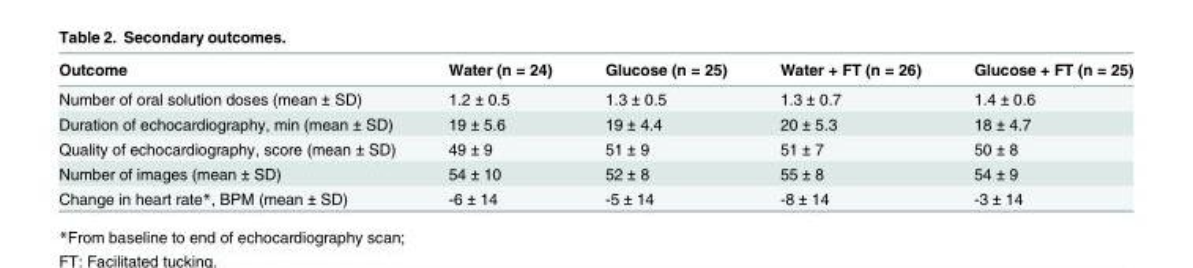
<table><thead><tr><td>Outcome</td><td>Water (n = 24)</td><td>Glucose (n = 25)</td><td>Water + FT (n = 26)</td><td>Glucose + FT (n = 25)</td></tr></thead><tbody><tr><td>Number of oral solution doses (mean ± SD)</td><td>1.2 ± 0.5</td><td>1.3 ± 0.5</td><td>1.3 ± 0.7</td><td>1.4 ± 0.6</td></tr><tr><td>Duration of echocardiography, min (mean ± SD)</td><td>19 ± 5.6</td><td>19 ± 4.4</td><td>20 ± 5.3</td><td>18 ± 4.7</td></tr><tr><td>Quality of echocardiography, score (mean ± SD)</td><td>49 ± 9</td><td>51 ± 9</td><td>51 ± 7</td><td>50 ± 8</td></tr><tr><td>Number of images (mean ± SD)</td><td>54 ± 10</td><td>52 ± 8</td><td>55 ± 8</td><td>54 ± 9</td></tr><tr><td>Change in heart rate*, BPM (mean ± SD)</td><td>-6 ± 14</td><td>-5 ± 14</td><td>-8 ± 14</td><td>-3 ± 14</td></tr></tbody></table>